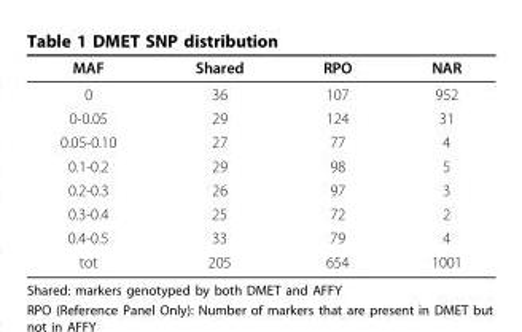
<table><thead><tr><td>MAF</td><td>Shared</td><td>RPO</td><td>NAR</td></tr></thead><tbody><tr><td>0</td><td>36</td><td>107</td><td>952</td></tr><tr><td>0-0.05</td><td>29</td><td>124</td><td>31</td></tr><tr><td>0.05-0.10</td><td>27</td><td>77</td><td>4</td></tr><tr><td>0.1-0.2</td><td>29</td><td>98</td><td>5</td></tr><tr><td>0.2-0.3</td><td>26</td><td>97</td><td>3</td></tr><tr><td>0.3-0.4</td><td>25</td><td>72</td><td>2</td></tr><tr><td>0.4-0.5</td><td>33</td><td>79</td><td>4</td></tr><tr><td>tot</td><td>205</td><td>654</td><td>1001</td></tr></tbody></table>